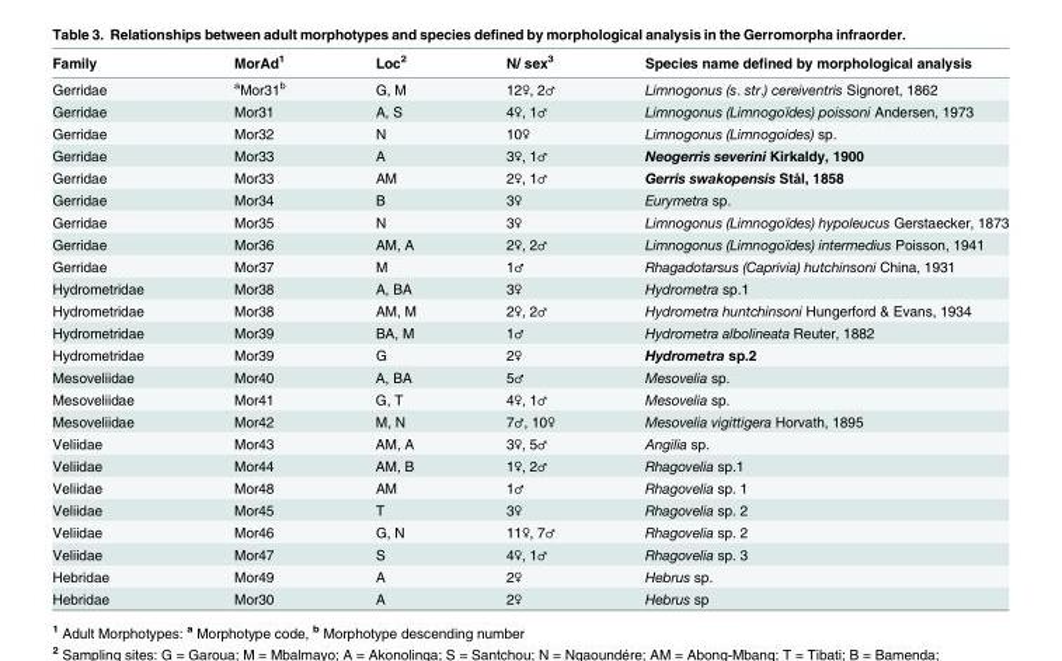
<table><thead><tr><td>Family</td><td>MorAd<sup>1</sup></td><td>Loc<sup>2</sup></td><td>N/ sex<sup>3</sup></td><td>Species name defined by morphological analysis</td></tr></thead><tbody><tr><td>Gerridae</td><td><sup>a</sup>Mor31<sup>b</sup></td><td>G, M</td><td>12♀, 2♂</td><td>Limnogonus (s. str.) cereiventris Signoret, 1862</td></tr><tr><td>Gerridae</td><td>Mor31</td><td>A, S</td><td>4♀, 1♂</td><td>Limnogonus (Limnogoïdes) poissoni Andersen, 1973</td></tr><tr><td>Gerridae</td><td>Mor32</td><td>N</td><td>10♀</td><td>Limnogonus (Limnogoides) sp.</td></tr><tr><td>Gerridae</td><td>Mor33</td><td>A</td><td>3♀, 1♂</td><td>Neogerris severini Kirkaldy, 1900</td></tr><tr><td>Gerridae</td><td>Mor33</td><td>AM</td><td>2♀, 1♂</td><td>Gerris swakopensis Stål, 1858</td></tr><tr><td>Gerridae</td><td>Mor34</td><td>B</td><td>3♀</td><td>Eurymetra sp.</td></tr><tr><td>Gerridae</td><td>Mor35</td><td>N</td><td>3♀</td><td>Limnogonus (Limnogoïdes) hypoleucus Gerstaecker, 1873</td></tr><tr><td>Gerridae</td><td>Mor36</td><td>AM, A</td><td>2♀, 2♂</td><td>Limnogonus (Limnogoïdes) intermedius Poisson, 1941</td></tr><tr><td>Gerridae</td><td>Mor37</td><td>M</td><td>1♂</td><td>Rhagadotarsus (Caprivia) hutchinsoni China, 1931</td></tr><tr><td>Hydrometridae</td><td>Mor38</td><td>A, BA</td><td>3♀</td><td>Hydrometra sp.1</td></tr><tr><td>Hydrometridae</td><td>Mor38</td><td>AM, M</td><td>2♀, 2♂</td><td>Hydrometra huntchinsoni Hungerford &amp; Evans, 1934</td></tr><tr><td>Hydrometridae</td><td>Mor39</td><td>BA, M</td><td>1♂</td><td>Hydrometra albolineata Reuter, 1882</td></tr><tr><td>Hydrometridae</td><td>Mor39</td><td>G</td><td>2♀</td><td>Hydrometra sp.2</td></tr><tr><td>Mesoveliidae</td><td>Mor40</td><td>A, BA</td><td>5♂</td><td>Mesovelia sp.</td></tr><tr><td>Mesoveliidae</td><td>Mor41</td><td>G, T</td><td>4♀, 1♂</td><td>Mesovelia sp.</td></tr><tr><td>Mesoveliidae</td><td>Mor42</td><td>M, N</td><td>7♂, 10♀</td><td>Mesovelia vigittigera Horvath, 1895</td></tr><tr><td>Veliidae</td><td>Mor43</td><td>AM, A</td><td>3♀, 5♂</td><td>Angilia sp.</td></tr><tr><td>Veliidae</td><td>Mor44</td><td>AM, B</td><td>1♀, 2♂</td><td>Rhagovelia sp.1</td></tr><tr><td>Veliidae</td><td>Mor48</td><td>AM</td><td>1♂</td><td>Rhagovelia sp. 1</td></tr><tr><td>Veliidae</td><td>Mor45</td><td>T</td><td>3♀</td><td>Rhagovelia sp. 2</td></tr><tr><td>Veliidae</td><td>Mor46</td><td>G, N</td><td>11♀, 7♂</td><td>Rhagovelia sp. 2</td></tr><tr><td>Veliidae</td><td>Mor47</td><td>S</td><td>4♀, 1♂</td><td>Rhagovelia sp. 3</td></tr><tr><td>Hebridae</td><td>Mor49</td><td>A</td><td>2♀</td><td>Hebrus sp.</td></tr><tr><td>Hebridae</td><td>Mor30</td><td>A</td><td>2♀</td><td>Hebrus sp</td></tr></tbody></table>